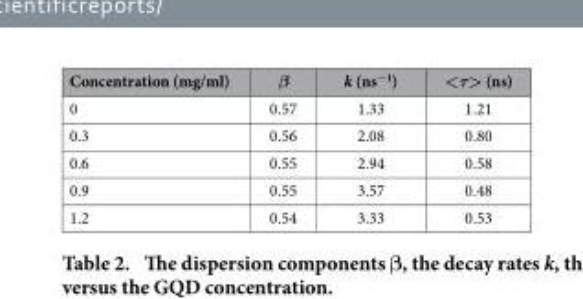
<table><thead><tr><td>Concentration (mg/ml)</td><td>β</td><td>k (ns<sup>−1</sup>)</td><td>&lt;τ&gt; (ns)</td></tr></thead><tbody><tr><td>0</td><td>0.57</td><td>1.33</td><td>1.21</td></tr><tr><td>0.3</td><td>0.56</td><td>2.08</td><td>0.80</td></tr><tr><td>0.6</td><td>0.55</td><td>2.94</td><td>0.58</td></tr><tr><td>0.9</td><td>0.55</td><td>3.57</td><td>0.48</td></tr><tr><td>1.2</td><td>0.54</td><td>3.33</td><td>0.53</td></tr></tbody></table>